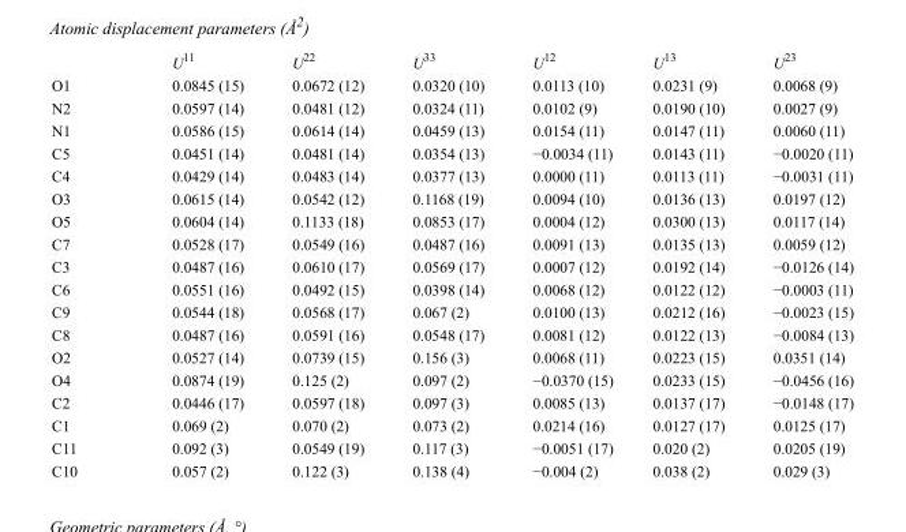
<table><thead><tr><td></td><td>U<sup>11</sup></td><td>U<sup>22</sup></td><td>U<sup>33</sup></td><td>U<sup>12</sup></td><td>U<sup>13</sup></td><td>U<sup>23</sup></td></tr></thead><tbody><tr><td>O1</td><td>0.0845 (15)</td><td>0.0672 (12)</td><td>0.0320 (10)</td><td>0.0113 (10)</td><td>0.0231 (9)</td><td>0.0068 (9)</td></tr><tr><td>N2</td><td>0.0597 (14)</td><td>0.0481 (12)</td><td>0.0324 (11)</td><td>0.0102 (9)</td><td>0.0190 (10)</td><td>0.0027 (9)</td></tr><tr><td>N1</td><td>0.0586 (15)</td><td>0.0614 (14)</td><td>0.0459 (13)</td><td>0.0154 (11)</td><td>0.0147 (11)</td><td>0.0060 (11)</td></tr><tr><td>C5</td><td>0.0451 (14)</td><td>0.0481 (14)</td><td>0.0354 (13)</td><td>−0.0034 (11)</td><td>0.0143 (11)</td><td>−0.0020 (11)</td></tr><tr><td>C4</td><td>0.0429 (14)</td><td>0.0483 (14)</td><td>0.0377 (13)</td><td>0.0000 (11)</td><td>0.0113 (11)</td><td>−0.0031 (11)</td></tr><tr><td>O3</td><td>0.0615 (14)</td><td>0.0542 (12)</td><td>0.1168 (19)</td><td>0.0094 (10)</td><td>0.0136 (13)</td><td>0.0197 (12)</td></tr><tr><td>O5</td><td>0.0604 (14)</td><td>0.1133 (18)</td><td>0.0853 (17)</td><td>0.0004 (12)</td><td>0.0300 (13)</td><td>0.0117 (14)</td></tr><tr><td>C7</td><td>0.0528 (17)</td><td>0.0549 (16)</td><td>0.0487 (16)</td><td>0.0091 (13)</td><td>0.0135 (13)</td><td>0.0059 (12)</td></tr><tr><td>C3</td><td>0.0487 (16)</td><td>0.0610 (17)</td><td>0.0569 (17)</td><td>0.0007 (12)</td><td>0.0192 (14)</td><td>−0.0126 (14)</td></tr><tr><td>C6</td><td>0.0551 (16)</td><td>0.0492 (15)</td><td>0.0398 (14)</td><td>0.0068 (12)</td><td>0.0122 (12)</td><td>−0.0003 (11)</td></tr><tr><td>C9</td><td>0.0544 (18)</td><td>0.0568 (17)</td><td>0.067 (2)</td><td>0.0100 (13)</td><td>0.0212 (16)</td><td>−0.0023 (15)</td></tr><tr><td>C8</td><td>0.0487 (16)</td><td>0.0591 (16)</td><td>0.0548 (17)</td><td>0.0081 (12)</td><td>0.0122 (13)</td><td>−0.0084 (13)</td></tr><tr><td>O2</td><td>0.0527 (14)</td><td>0.0739 (15)</td><td>0.156 (3)</td><td>0.0068 (11)</td><td>0.0223 (15)</td><td>0.0351 (14)</td></tr><tr><td>O4</td><td>0.0874 (19)</td><td>0.125 (2)</td><td>0.097 (2)</td><td>−0.0370 (15)</td><td>0.0233 (15)</td><td>−0.0456 (16)</td></tr><tr><td>C2</td><td>0.0446 (17)</td><td>0.0597 (18)</td><td>0.097 (3)</td><td>0.0085 (13)</td><td>0.0137 (17)</td><td>−0.0148 (17)</td></tr><tr><td>C1</td><td>0.069 (2)</td><td>0.070 (2)</td><td>0.073 (2)</td><td>0.0214 (16)</td><td>0.0127 (17)</td><td>0.0125 (17)</td></tr><tr><td>C11</td><td>0.092 (3)</td><td>0.0549 (19)</td><td>0.117 (3)</td><td>−0.0051 (17)</td><td>0.020 (2)</td><td>0.0205 (19)</td></tr><tr><td>C10</td><td>0.057 (2)</td><td>0.122 (3)</td><td>0.138 (4)</td><td>−0.004 (2)</td><td>0.038 (2)</td><td>0.029 (3)</td></tr></tbody></table>